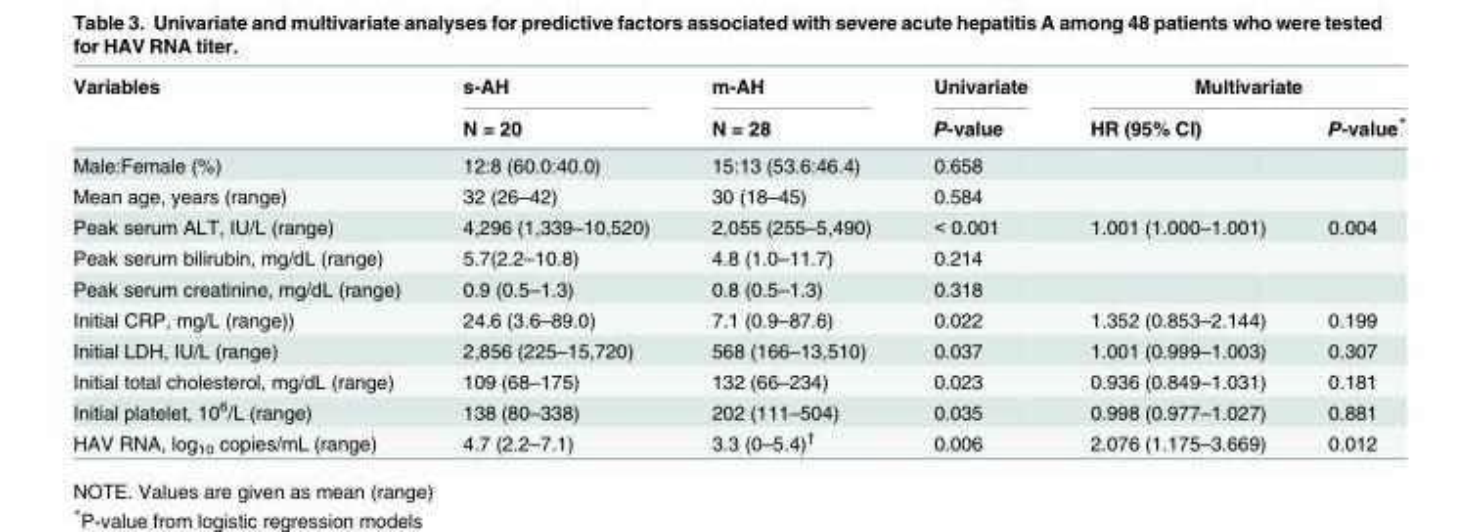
<table><thead><tr><td rowspan="2">Variables</td><td rowspan="2">s-AH N = 20</td><td rowspan="2">m-AH N = 28</td><td rowspan="2">Univariate P-value</td><td colspan="2">Multivariate</td></tr><tr><td>HR (95% CI)</td><td>P-value*</td></tr></thead><tbody><tr><td>Male:Female (%)</td><td>12:8 (60.0:40.0)</td><td>15:13 (53.6:46.4)</td><td>0.658</td><td></td><td></td></tr><tr><td>Mean age, years (range)</td><td>32 (26–42)</td><td>30 (18–45)</td><td>0.584</td><td></td><td></td></tr><tr><td>Peak serum ALT, IU/L (range)</td><td>4,296 (1,339–10,520)</td><td>2,055 (255–5,490)</td><td>&lt; 0.001</td><td>1.001 (1.000–1.001)</td><td>0.004</td></tr><tr><td>Peak serum bilirubin, mg/dL (range)</td><td>5.7(2.2–10.8)</td><td>4.8 (1.0–11.7)</td><td>0.214</td><td></td><td></td></tr><tr><td>Peak serum creatinine, mg/dL (range)</td><td>0.9 (0.5–1.3)</td><td>0.8 (0.5–1.3)</td><td>0.318</td><td></td><td></td></tr><tr><td>Initial CRP, mg/L (range))</td><td>24.6 (3.6–89.0)</td><td>7.1 (0.9–87.6)</td><td>0.022</td><td>1.352 (0.853–2.144)</td><td>0.199</td></tr><tr><td>Initial LDH, IU/L (range)</td><td>2,856 (225–15,720)</td><td>568 (166–13,510)</td><td>0.037</td><td>1.001 (0.999–1.003)</td><td>0.307</td></tr><tr><td>Initial total cholesterol, mg/dL (range)</td><td>109 (68–175)</td><td>132 (66–234)</td><td>0.023</td><td>0.936 (0.849–1.031)</td><td>0.181</td></tr><tr><td>Initial platelet, 10<sup>6</sup>/L (range)</td><td>138 (80–338)</td><td>202 (111–504)</td><td>0.035</td><td>0.998 (0.977–1.027)</td><td>0.881</td></tr><tr><td>HAV RNA, log<sub>10</sub> copies/mL (range)</td><td>4.7 (2.2–7.1)</td><td>3.3 (0–5.4)<sup>†</sup></td><td>0.006</td><td>2.076 (1.175–3.669)</td><td>0.012</td></tr></tbody></table>